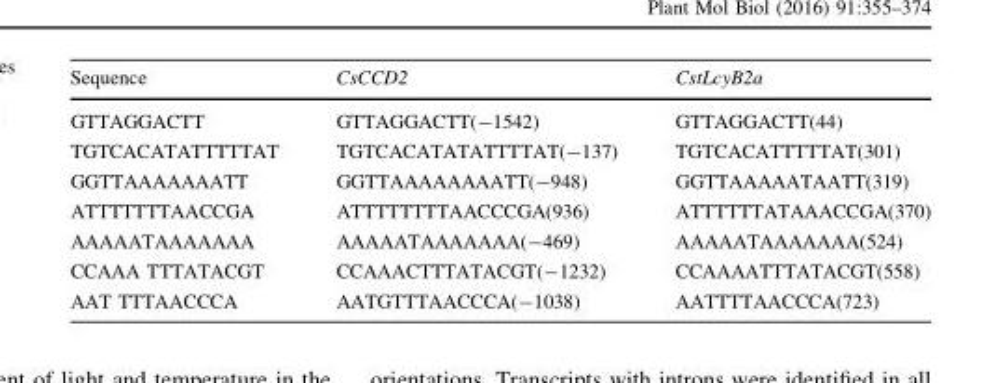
<table><thead><tr><td>Sequence</td><td>CsCCD2</td><td>CstLcyB2a</td></tr></thead><tbody><tr><td>GTTAGGACTT</td><td>GTTAGGACTT(-1542)</td><td>GTTAGGACTT(44)</td></tr><tr><td>TGTCACATATTTTTAT</td><td>TGTCACATATATTTTAT(-137)</td><td>TGTCACATTTTTAT(301)</td></tr><tr><td>GGTTAAAAAAATT</td><td>GGTTAAAAAAAATT(-948)</td><td>GGTTAAAAATAATT(319)</td></tr><tr><td>ATTTTTTTAACCGA</td><td>ATTTTTTTTAACCCGA(936)</td><td>ATTTTTTATAAACCGA(370)</td></tr><tr><td>AAAAATAAAAAAA</td><td>AAAAATAAAAAAA(-469)</td><td>AAAAATAAAAAAA(524)</td></tr><tr><td>CCAAA TTTATACGT</td><td>CCAAACTTTATACGT(-1232)</td><td>CCAAAATTTATACGT(558)</td></tr><tr><td>AAT TTTAACCCA</td><td>AATGTTTAACCCA(-1038)</td><td>AATTTTAACCCA(723)</td></tr></tbody></table>